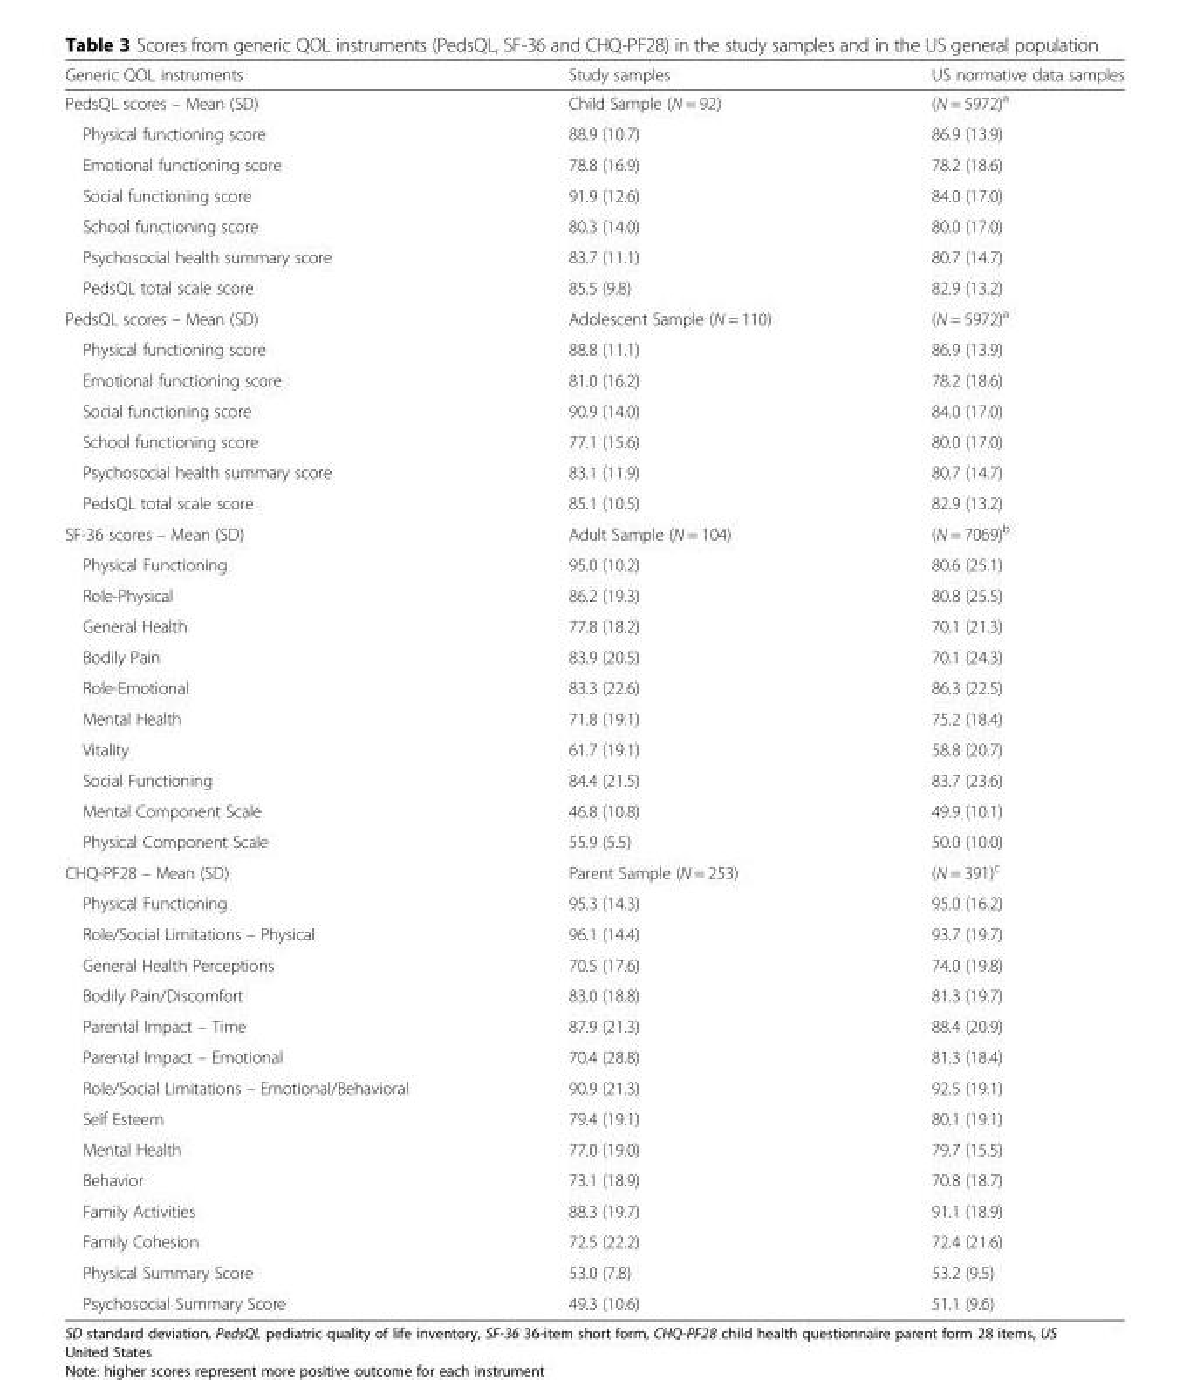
<table><thead><tr><td>Generic QOL instruments</td><td>Study samples</td><td>US normative data samples</td></tr></thead><tbody><tr><td>PedsQL scores – Mean (SD)</td><td>Child Sample (N = 92)</td><td>(N = 5972)<sup>a</sup></td></tr><tr><td>Physical functioning score</td><td>88.9 (10.7)</td><td>86.9 (13.9)</td></tr><tr><td>Emotional functioning score</td><td>78.8 (16.9)</td><td>78.2 (18.6)</td></tr><tr><td>Social functioning score</td><td>91.9 (12.6)</td><td>84.0 (17.0)</td></tr><tr><td>School functioning score</td><td>80.3 (14.0)</td><td>80.0 (17.0)</td></tr><tr><td>Psychosocial health summary score</td><td>83.7 (11.1)</td><td>80.7 (14.7)</td></tr><tr><td>PedsQL total scale score</td><td>85.5 (9.8)</td><td>82.9 (13.2)</td></tr><tr><td>PedsQL scores – Mean (SD)</td><td>Adolescent Sample (N = 110)</td><td>(N = 5972)<sup>a</sup></td></tr><tr><td>Physical functioning score</td><td>88.8 (11.1)</td><td>86.9 (13.9)</td></tr><tr><td>Emotional functioning score</td><td>81.0 (16.2)</td><td>78.2 (18.6)</td></tr><tr><td>Social functioning score</td><td>90.9 (14.0)</td><td>84.0 (17.0)</td></tr><tr><td>School functioning score</td><td>77.1 (15.6)</td><td>80.0 (17.0)</td></tr><tr><td>Psychosocial health summary score</td><td>83.1 (11.9)</td><td>80.7 (14.7)</td></tr><tr><td>PedsQL total scale score</td><td>85.1 (10.5)</td><td>82.9 (13.2)</td></tr><tr><td>SF-36 scores – Mean (SD)</td><td>Adult Sample (N = 104)</td><td>(N = 7069)<sup>b</sup></td></tr><tr><td>Physical Functioning</td><td>95.0 (10.2)</td><td>80.6 (25.1)</td></tr><tr><td>Role-Physical</td><td>86.2 (19.3)</td><td>80.8 (25.5)</td></tr><tr><td>General Health</td><td>77.8 (18.2)</td><td>70.1 (21.3)</td></tr><tr><td>Bodily Pain</td><td>83.9 (20.5)</td><td>70.1 (24.3)</td></tr><tr><td>Role-Emotional</td><td>83.3 (22.6)</td><td>86.3 (22.5)</td></tr><tr><td>Mental Health</td><td>71.8 (19.1)</td><td>75.2 (18.4)</td></tr><tr><td>Vitality</td><td>61.7 (19.1)</td><td>58.8 (20.7)</td></tr><tr><td>Social Functioning</td><td>84.4 (21.5)</td><td>83.7 (23.6)</td></tr><tr><td>Mental Component Scale</td><td>46.8 (10.8)</td><td>49.9 (10.1)</td></tr><tr><td>Physical Component Scale</td><td>55.9 (5.5)</td><td>50.0 (10.0)</td></tr><tr><td>CHQ-PF28 – Mean (SD)</td><td>Parent Sample (N = 253)</td><td>(N = 391)<sup>c</sup></td></tr><tr><td>Physical Functioning</td><td>95.3 (14.3)</td><td>95.0 (16.2)</td></tr><tr><td>Role/Social Limitations – Physical</td><td>96.1 (14.4)</td><td>93.7 (19.7)</td></tr><tr><td>General Health Perceptions</td><td>70.5 (17.6)</td><td>74.0 (19.8)</td></tr><tr><td>Bodily Pain/Discomfort</td><td>83.0 (18.8)</td><td>81.3 (19.7)</td></tr><tr><td>Parental Impact – Time</td><td>87.9 (21.3)</td><td>88.4 (20.9)</td></tr><tr><td>Parental Impact – Emotional</td><td>70.4 (28.8)</td><td>81.3 (18.4)</td></tr><tr><td>Role/Social Limitations – Emotional/Behavioral</td><td>90.9 (21.3)</td><td>92.5 (19.1)</td></tr><tr><td>Self Esteem</td><td>79.4 (19.1)</td><td>80.1 (19.1)</td></tr><tr><td>Mental Health</td><td>77.0 (19.0)</td><td>79.7 (15.5)</td></tr><tr><td>Behavior</td><td>73.1 (18.9)</td><td>70.8 (18.7)</td></tr><tr><td>Family Activities</td><td>88.3 (19.7)</td><td>91.1 (18.9)</td></tr><tr><td>Family Cohesion</td><td>72.5 (22.2)</td><td>72.4 (21.6)</td></tr><tr><td>Physical Summary Score</td><td>53.0 (7.8)</td><td>53.2 (9.5)</td></tr><tr><td>Psychosocial Summary Score</td><td>49.3 (10.6)</td><td>51.1 (9.6)</td></tr></tbody></table>